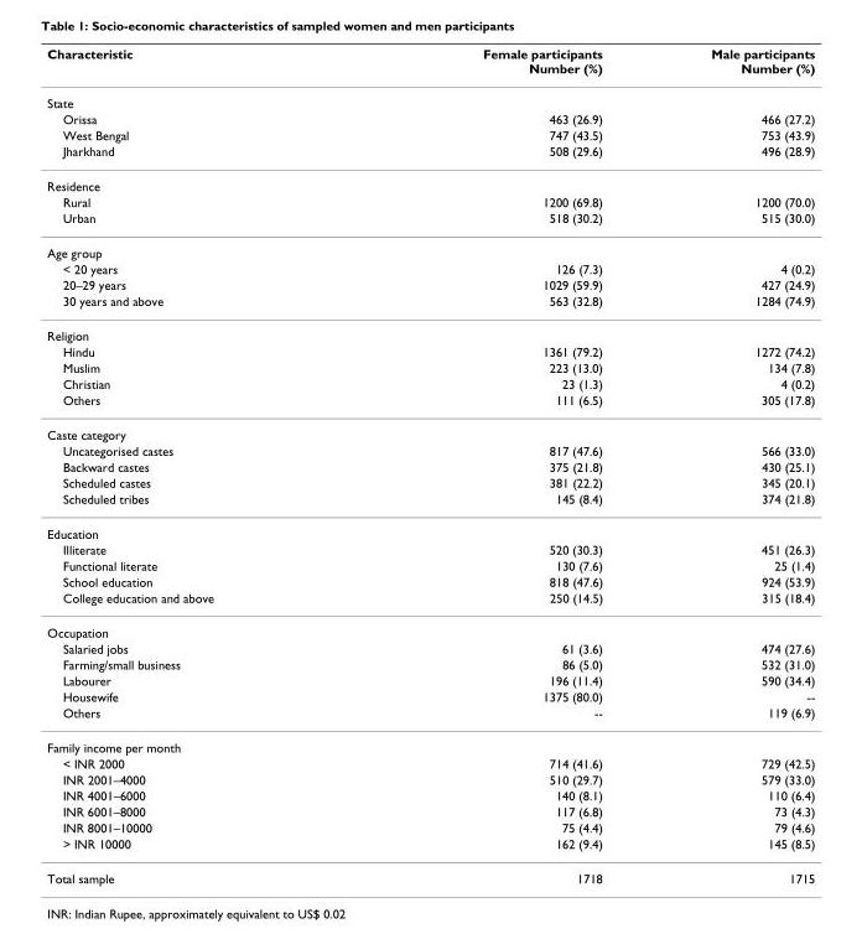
<table><thead><tr><td>Characteristic</td><td>Female participants Number (%)</td><td>Male participants Number (%)</td></tr></thead><tbody><tr><td colspan="3">State</td></tr><tr><td>Orissa</td><td>463 (26.9)</td><td>466 (27.2)</td></tr><tr><td>West Bengal</td><td>747 (43.5)</td><td>753 (43.9)</td></tr><tr><td>Jharkhand</td><td>508 (29.6)</td><td>496 (28.9)</td></tr><tr><td colspan="3">Residence</td></tr><tr><td>Rural</td><td>1200 (69.8)</td><td>1200 (70.0)</td></tr><tr><td>Urban</td><td>518 (30.2)</td><td>515 (30.0)</td></tr><tr><td colspan="3">Age group</td></tr><tr><td>&lt; 20 years</td><td>126 (7.3)</td><td>4 (0.2)</td></tr><tr><td>20–29 years</td><td>1029 (59.9)</td><td>427 (24.9)</td></tr><tr><td>30 years and above</td><td>563 (32.8)</td><td>1284 (74.9)</td></tr><tr><td colspan="3">Religion</td></tr><tr><td>Hindu</td><td>1361 (79.2)</td><td>1272 (74.2)</td></tr><tr><td>Muslim</td><td>223 (13.0)</td><td>134 (7.8)</td></tr><tr><td>Christian</td><td>23 (1.3)</td><td>4 (0.2)</td></tr><tr><td>Others</td><td>111 (6.5)</td><td>305 (17.8)</td></tr><tr><td colspan="3">Caste category</td></tr><tr><td>Uncategorised castes</td><td>817 (47.6)</td><td>566 (33.0)</td></tr><tr><td>Backward castes</td><td>375 (21.8)</td><td>430 (25.1)</td></tr><tr><td>Scheduled castes</td><td>381 (22.2)</td><td>345 (20.1)</td></tr><tr><td>Scheduled tribes</td><td>145 (8.4)</td><td>374 (21.8)</td></tr><tr><td colspan="3">Education</td></tr><tr><td>Illiterate</td><td>520 (30.3)</td><td>451 (26.3)</td></tr><tr><td>Functional literate</td><td>130 (7.6)</td><td>25 (1.4)</td></tr><tr><td>School education</td><td>818 (47.6)</td><td>924 (53.9)</td></tr><tr><td>College education and above</td><td>250 (14.5)</td><td>315 (18.4)</td></tr><tr><td colspan="3">Occupation</td></tr><tr><td>Salaried jobs</td><td>61 (3.6)</td><td>474 (27.6)</td></tr><tr><td>Farming/small business</td><td>86 (5.0)</td><td>532 (31.0)</td></tr><tr><td>Labourer</td><td>196 (11.4)</td><td>590 (34.4)</td></tr><tr><td>Housewife</td><td>1375 (80.0)</td><td>--</td></tr><tr><td>Others</td><td>--</td><td>119 (6.9)</td></tr><tr><td colspan="3">Family income per month</td></tr><tr><td>&lt; INR 2000</td><td>714 (41.6)</td><td>729 (42.5)</td></tr><tr><td>INR 2001–4000</td><td>510 (29.7)</td><td>579 (33.0)</td></tr><tr><td>INR 4001–6000</td><td>140 (8.1)</td><td>110 (6.4)</td></tr><tr><td>INR 6001–8000</td><td>117 (6.8)</td><td>73 (4.3)</td></tr><tr><td>INR 8001–10000</td><td>75 (4.4)</td><td>79 (4.6)</td></tr><tr><td>&gt; INR 10000</td><td>162 (9.4)</td><td>145 (8.5)</td></tr><tr><td>Total sample</td><td>1718</td><td>1715</td></tr></tbody></table>